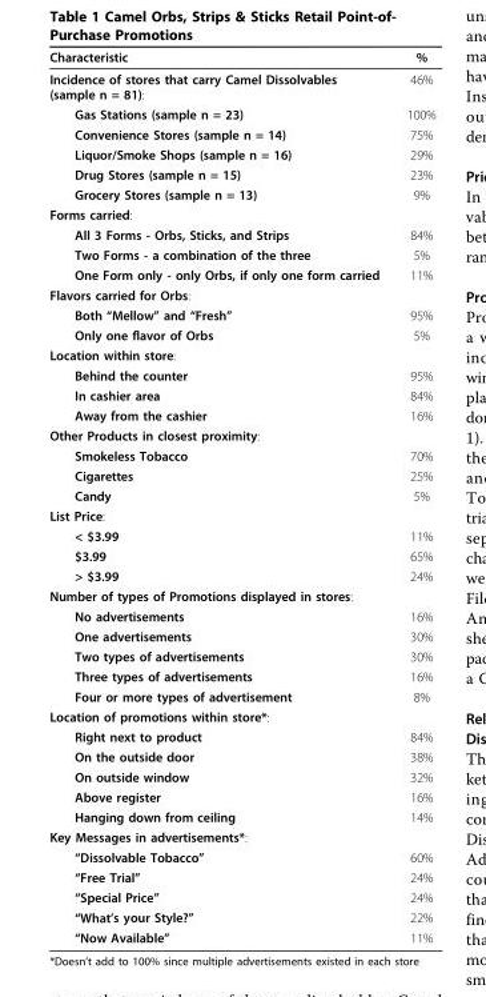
<table><thead><tr><td>Characteristic</td><td>%</td></tr></thead><tbody><tr><td>Incidence of stores that carry Camel Dissolvables (sample n = 81):</td><td>46%</td></tr><tr><td>Gas Stations (sample n = 23)</td><td>100%</td></tr><tr><td>Convenience Stores (sample n = 14)</td><td>75%</td></tr><tr><td>Liquor/Smoke Shops (sample n = 16)</td><td>29%</td></tr><tr><td>Drug Stores (sample n = 15)</td><td>23%</td></tr><tr><td>Grocery Stores (sample n = 13)</td><td>9%</td></tr><tr><td colspan="2">Forms carried:</td></tr><tr><td>All 3 Forms - Orbs, Sticks, and Strips</td><td>84%</td></tr><tr><td>Two Forms - a combination of the three</td><td>5%</td></tr><tr><td>One Form only - only Orbs, if only one form carried</td><td>11%</td></tr><tr><td colspan="2">Flavors carried for Orbs:</td></tr><tr><td>Both “Mellow” and “Fresh”</td><td>95%</td></tr><tr><td>Only one flavor of Orbs</td><td>5%</td></tr><tr><td colspan="2">Location within store:</td></tr><tr><td>Behind the counter</td><td>95%</td></tr><tr><td>In cashier area</td><td>84%</td></tr><tr><td>Away from the cashier</td><td>16%</td></tr><tr><td colspan="2">Other Products in closest proximity:</td></tr><tr><td>Smokeless Tobacco</td><td>70%</td></tr><tr><td>Cigarettes</td><td>25%</td></tr><tr><td>Candy</td><td>5%</td></tr><tr><td colspan="2">List Price:</td></tr><tr><td>&lt; $3.99</td><td>11%</td></tr><tr><td>$3.99</td><td>65%</td></tr><tr><td>&gt; $3.99</td><td>24%</td></tr><tr><td colspan="2">Number of types of Promotions displayed in stores:</td></tr><tr><td>No advertisements</td><td>16%</td></tr><tr><td>One advertisements</td><td>30%</td></tr><tr><td>Two types of advertisements</td><td>30%</td></tr><tr><td>Three types of advertisements</td><td>16%</td></tr><tr><td>Four or more types of advertisement</td><td>8%</td></tr><tr><td colspan="2">Location of promotions within store*:</td></tr><tr><td>Right next to product</td><td>84%</td></tr><tr><td>On the outside door</td><td>38%</td></tr><tr><td>On outside window</td><td>32%</td></tr><tr><td>Above register</td><td>16%</td></tr><tr><td>Hanging down from ceiling</td><td>14%</td></tr><tr><td colspan="2">Key Messages in advertisements*:</td></tr><tr><td>“Dissolvable Tobacco”</td><td>60%</td></tr><tr><td>“Free Trial”</td><td>24%</td></tr><tr><td>“Special Price”</td><td>24%</td></tr><tr><td>“What’s your Style?”</td><td>22%</td></tr><tr><td>“Now Available”</td><td>11%</td></tr></tbody></table>